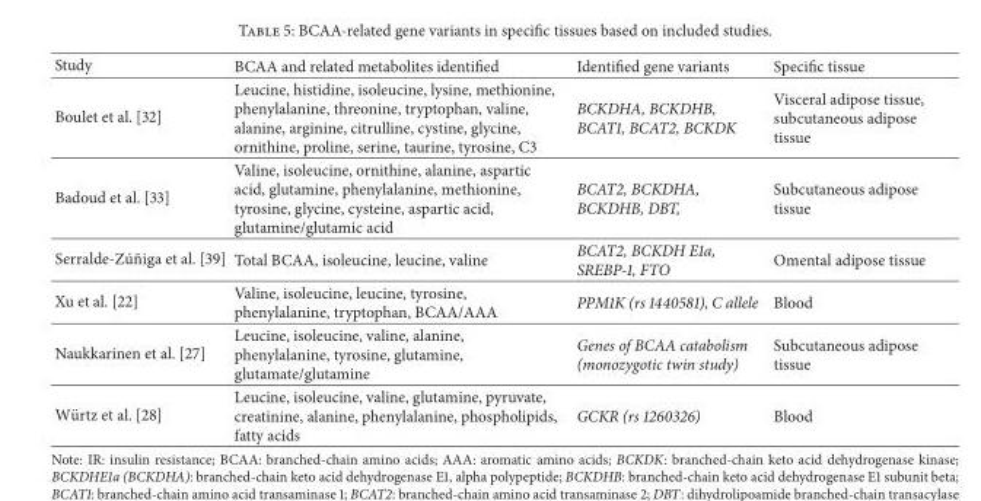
<table><thead><tr><td>Study</td><td>BCAA and related metabolites identified</td><td>Identified gene variants</td><td>Specific tissue</td></tr></thead><tbody><tr><td>Boulet et al. [32]</td><td>Leucine, histidine, isoleucine, lysine, methionine, phenylalanine, threonine, tryptophan, valine, alanine, arginine, citrulline, cystine, glycine, ornithine, proline, serine, taurine, tyrosine, C3</td><td>BCKDHA, BCKDHB, BCAT1, BCAT2, BCKDK</td><td>Visceral adipose tissue, subcutaneous adipose tissue</td></tr><tr><td>Badoud et al. [33]</td><td>Valine, isoleucine, ornithine, alanine, aspartic acid, glutamine, phenylalanine, methionine, tyrosine, glycine, cysteine, aspartic acid, glutamine/glutamic acid</td><td>BCAT2, BCKDHA, BCKDHB, DBT,</td><td>Subcutaneous adipose tissue</td></tr><tr><td>Serralde-Z´u˜niga et al. [39]</td><td>Total BCAA, isoleucine, leucine, valine</td><td>BCAT2, BCKDH E1a, SREBP-1, FTO</td><td>Omental adipose tissue</td></tr><tr><td>Xu et al. [22]</td><td>Valine, isoleucine, leucine, tyrosine, phenylalanine, tryptophan, BCAA/AAA</td><td>PPM1K (rs 1440581), C allele</td><td>Blood</td></tr><tr><td>Naukkarinen et al. [27]</td><td>Leucine, isoleucine, valine, alanine, phenylalanine, tyrosine, glutamine, glutamate/glutamine</td><td>Genes of BCAA catabolism (monozygotic twin study)</td><td>Subcutaneous adipose tissue</td></tr><tr><td>W¨urtz et al. [28]</td><td>Leucine, isoleucine, valine, glutamine, pyruvate, creatinine, alanine, phenylalanine, phospholipids, fatty acids</td><td>GCKR (rs 1260326)</td><td>Blood</td></tr></tbody></table>